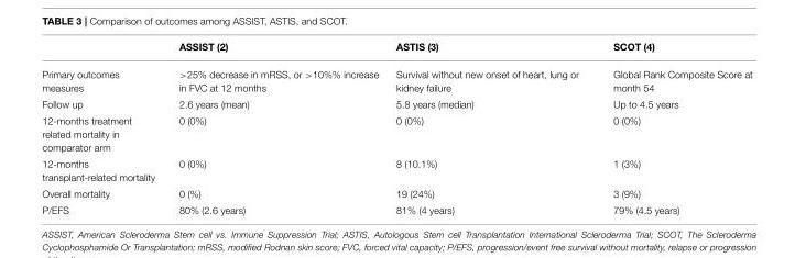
<table><thead><tr><td></td><td>ASSIST (2)</td><td>ASTIS (3)</td><td>SCOT (4)</td></tr></thead><tbody><tr><td>Primary outcomes measures</td><td>&gt;25% decrease in mRSS, or &gt;10%% increase in FVC at 12 months</td><td>Survival without new onset of heart, lung or kidney failure</td><td>Global Rank Composite Score at month 54</td></tr><tr><td>Follow up</td><td>2.6 years (mean)</td><td>5.8 years (median)</td><td>Up to 4.5 years</td></tr><tr><td>12-months treatment related mortality in comparator arm</td><td>0 (0%)</td><td>0 (0%)</td><td>0 (0%)</td></tr><tr><td>12-months transplant-related mortality</td><td>0 (0%)</td><td>8 (10.1%)</td><td>1 (3%)</td></tr><tr><td>Overall mortality</td><td>0 (%)</td><td>19 (24%)</td><td>3 (9%)</td></tr><tr><td>P/EFS</td><td>80% (2.6 years)</td><td>81% (4 years)</td><td>79% (4.5 years)</td></tr></tbody></table>